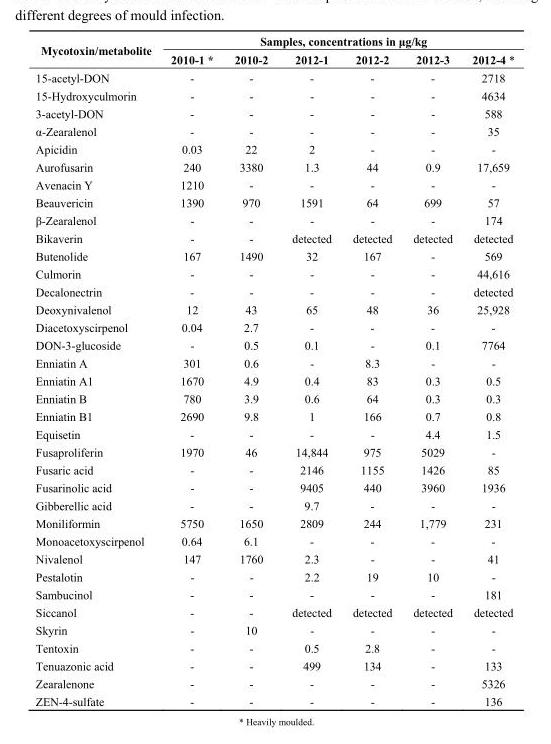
<table><thead><tr><td rowspan="2">Mycotoxin/metabolite</td><td colspan="6">Samples, concentrations in μg/kg</td></tr><tr><td>2010-1 *</td><td>2010-2</td><td>2012-1</td><td>2012-2</td><td>2012-3</td><td>2012-4 *</td></tr></thead><tbody><tr><td>15-acetyl-DON</td><td>-</td><td>-</td><td>-</td><td>-</td><td>-</td><td>2718</td></tr><tr><td>15-Hydroxyculmorin</td><td>-</td><td>-</td><td>-</td><td>-</td><td>-</td><td>4634</td></tr><tr><td>3-acetyl-DON</td><td>-</td><td>-</td><td>-</td><td>-</td><td>-</td><td>588</td></tr><tr><td>α-Zearalenol</td><td>-</td><td>-</td><td>-</td><td>-</td><td>-</td><td>35</td></tr><tr><td>Apicidin</td><td>0.03</td><td>22</td><td>2</td><td>-</td><td>-</td><td>-</td></tr><tr><td>Aurofusarin</td><td>240</td><td>3380</td><td>1.3</td><td>44</td><td>0.9</td><td>17,659</td></tr><tr><td>Avenacin Y</td><td>1210</td><td>-</td><td>-</td><td>-</td><td>-</td><td>-</td></tr><tr><td>Beauvericin</td><td>1390</td><td>970</td><td>1591</td><td>64</td><td>699</td><td>57</td></tr><tr><td>β-Zearalenol</td><td>-</td><td>-</td><td>-</td><td>-</td><td>-</td><td>174</td></tr><tr><td>Bikaverin</td><td>-</td><td>-</td><td>detected</td><td>detected</td><td>detected</td><td>detected</td></tr><tr><td>Butenolide</td><td>167</td><td>1490</td><td>32</td><td>167</td><td>-</td><td>569</td></tr><tr><td>Culmorin</td><td>-</td><td>-</td><td>-</td><td>-</td><td>-</td><td>44,616</td></tr><tr><td>Decalonectrin</td><td>-</td><td>-</td><td>-</td><td>-</td><td>-</td><td>detected</td></tr><tr><td>Deoxynivalenol</td><td>12</td><td>43</td><td>65</td><td>48</td><td>36</td><td>25,928</td></tr><tr><td>Diacetoxyscirpenol</td><td>0.04</td><td>2.7</td><td>-</td><td>-</td><td>-</td><td>-</td></tr><tr><td>DON-3-glucoside</td><td>-</td><td>0.5</td><td>0.1</td><td>-</td><td>0.1</td><td>7764</td></tr><tr><td>Enniatin A</td><td>301</td><td>0.6</td><td>-</td><td>8.3</td><td>-</td><td>-</td></tr><tr><td>Enniatin A1</td><td>1670</td><td>4.9</td><td>0.4</td><td>83</td><td>0.3</td><td>0.5</td></tr><tr><td>Enniatin B</td><td>780</td><td>3.9</td><td>0.6</td><td>64</td><td>0.3</td><td>0.3</td></tr><tr><td>Enniatin B1</td><td>2690</td><td>9.8</td><td>1</td><td>166</td><td>0.7</td><td>0.8</td></tr><tr><td>Equisetin</td><td>-</td><td>-</td><td>-</td><td>-</td><td>4.4</td><td>1.5</td></tr><tr><td>Fusaproliferin</td><td>1970</td><td>46</td><td>14,844</td><td>975</td><td>5029</td><td>-</td></tr><tr><td>Fusaric acid</td><td>-</td><td>-</td><td>2146</td><td>1155</td><td>1426</td><td>85</td></tr><tr><td>Fusarinolic acid</td><td>-</td><td>-</td><td>9405</td><td>440</td><td>3960</td><td>1936</td></tr><tr><td>Gibberellic acid</td><td>-</td><td>-</td><td>9.7</td><td>-</td><td>-</td><td>-</td></tr><tr><td>Moniliformin</td><td>5750</td><td>1650</td><td>2809</td><td>244</td><td>1,779</td><td>231</td></tr><tr><td>Monoacetoxyscirpenol</td><td>0.64</td><td>6.1</td><td>-</td><td>-</td><td>-</td><td>-</td></tr><tr><td>Nivalenol</td><td>147</td><td>1760</td><td>2.3</td><td>-</td><td>-</td><td>41</td></tr><tr><td>Pestalotin</td><td>-</td><td>-</td><td>2.2</td><td>19</td><td>10</td><td>-</td></tr><tr><td>Sambucinol</td><td>-</td><td>-</td><td>-</td><td>-</td><td>-</td><td>181</td></tr><tr><td>Siccanol</td><td>-</td><td>-</td><td>detected</td><td>detected</td><td>detected</td><td>detected</td></tr><tr><td>Skyrin</td><td>-</td><td>10</td><td>-</td><td>-</td><td>-</td><td>-</td></tr><tr><td>Tentoxin</td><td>-</td><td>-</td><td>0.5</td><td>2.8</td><td>-</td><td>-</td></tr><tr><td>Tenuazonic acid</td><td>-</td><td>-</td><td>499</td><td>134</td><td>-</td><td>133</td></tr><tr><td>Zearalenone</td><td>-</td><td>-</td><td>-</td><td>-</td><td>-</td><td>5326</td></tr><tr><td>ZEN-4-sulfate</td><td>-</td><td>-</td><td>-</td><td>-</td><td>-</td><td>136</td></tr></tbody></table>